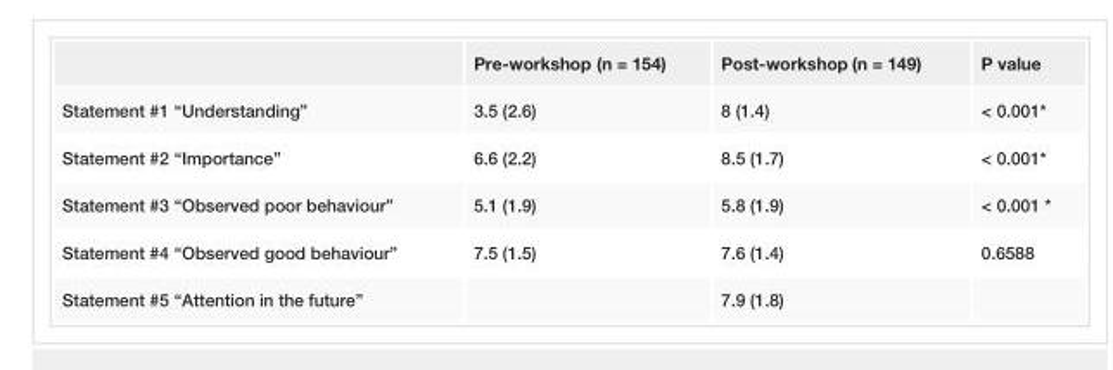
<table><thead><tr><td></td><td>Pre-workshop (n = 154)</td><td>Post-workshop (n = 149)</td><td>P value</td></tr></thead><tbody><tr><td>Statement #1 “Understanding”</td><td>3.5 (2.6)</td><td>8 (1.4)</td><td>&lt; 0.001*</td></tr><tr><td>Statement #2 “Importance”</td><td>6.6 (2.2)</td><td>8.5 (1.7)</td><td>&lt; 0.001*</td></tr><tr><td>Statement #3 “Observed poor behaviour”</td><td>5.1 (1.9)</td><td>5.8 (1.9)</td><td>&lt; 0.001 *</td></tr><tr><td>Statement #4 “Observed good behaviour”</td><td>7.5 (1.5)</td><td>7.6 (1.4)</td><td>0.6588</td></tr><tr><td>Statement #5 “Attention in the future”</td><td></td><td>7.9 (1.8)</td><td></td></tr></tbody></table>